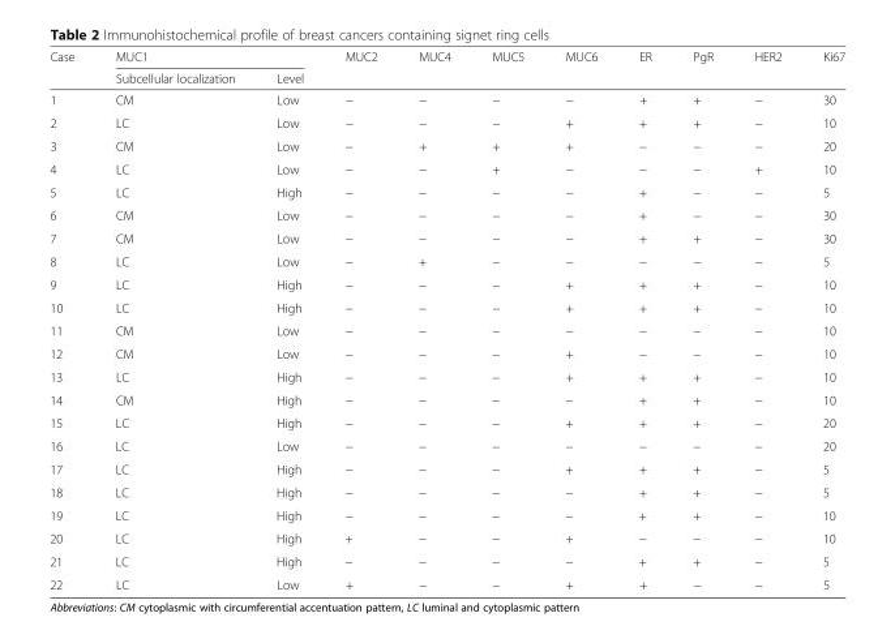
<table><thead><tr><td rowspan="2">Case</td><td colspan="2">MUC1</td><td rowspan="2">MUC2</td><td rowspan="2">MUC4</td><td rowspan="2">MUC5</td><td rowspan="2">MUC6</td><td rowspan="2">ER</td><td rowspan="2">PgR</td><td rowspan="2">HER2</td><td rowspan="2">Ki67</td></tr><tr><td>Subcellular localization</td><td>Level</td></tr></thead><tbody><tr><td>1</td><td>CM</td><td>Low</td><td>−</td><td>−</td><td>−</td><td>−</td><td>+</td><td>+</td><td>−</td><td>30</td></tr><tr><td>2</td><td>LC</td><td>Low</td><td>−</td><td>−</td><td>−</td><td>+</td><td>+</td><td>+</td><td>−</td><td>10</td></tr><tr><td>3</td><td>CM</td><td>Low</td><td>−</td><td>+</td><td>+</td><td>+</td><td>−</td><td>−</td><td>−</td><td>20</td></tr><tr><td>4</td><td>LC</td><td>Low</td><td>−</td><td>−</td><td>+</td><td>−</td><td>−</td><td>−</td><td>+</td><td>10</td></tr><tr><td>5</td><td>LC</td><td>High</td><td>−</td><td>−</td><td>−</td><td>−</td><td>+</td><td>−</td><td>−</td><td>5</td></tr><tr><td>6</td><td>CM</td><td>Low</td><td>−</td><td>−</td><td>−</td><td>−</td><td>+</td><td>−</td><td>−</td><td>30</td></tr><tr><td>7</td><td>CM</td><td>Low</td><td>−</td><td>−</td><td>−</td><td>−</td><td>+</td><td>+</td><td>−</td><td>30</td></tr><tr><td>8</td><td>LC</td><td>Low</td><td>−</td><td>+</td><td>−</td><td>−</td><td>−</td><td>−</td><td>−</td><td>5</td></tr><tr><td>9</td><td>LC</td><td>High</td><td>−</td><td>−</td><td>−</td><td>+</td><td>+</td><td>+</td><td>−</td><td>10</td></tr><tr><td>10</td><td>LC</td><td>High</td><td>−</td><td>−</td><td>−</td><td>+</td><td>+</td><td>+</td><td>−</td><td>10</td></tr><tr><td>11</td><td>CM</td><td>Low</td><td>−</td><td>−</td><td>−</td><td>−</td><td>−</td><td>−</td><td>−</td><td>10</td></tr><tr><td>12</td><td>CM</td><td>Low</td><td>−</td><td>−</td><td>−</td><td>+</td><td>−</td><td>−</td><td>−</td><td>10</td></tr><tr><td>13</td><td>LC</td><td>High</td><td>−</td><td>−</td><td>−</td><td>+</td><td>+</td><td>+</td><td>−</td><td>10</td></tr><tr><td>14</td><td>CM</td><td>High</td><td>−</td><td>−</td><td>−</td><td>−</td><td>+</td><td>+</td><td>−</td><td>10</td></tr><tr><td>15</td><td>LC</td><td>High</td><td>−</td><td>−</td><td>−</td><td>+</td><td>+</td><td>+</td><td>−</td><td>20</td></tr><tr><td>16</td><td>LC</td><td>Low</td><td>−</td><td>−</td><td>−</td><td>−</td><td>−</td><td>−</td><td>−</td><td>20</td></tr><tr><td>17</td><td>LC</td><td>High</td><td>−</td><td>−</td><td>−</td><td>+</td><td>+</td><td>+</td><td>−</td><td>5</td></tr><tr><td>18</td><td>LC</td><td>High</td><td>−</td><td>−</td><td>−</td><td>−</td><td>+</td><td>+</td><td>−</td><td>5</td></tr><tr><td>19</td><td>LC</td><td>High</td><td>−</td><td>−</td><td>−</td><td>−</td><td>+</td><td>+</td><td>−</td><td>10</td></tr><tr><td>20</td><td>LC</td><td>High</td><td>+</td><td>−</td><td>−</td><td>+</td><td>−</td><td>−</td><td>−</td><td>10</td></tr><tr><td>21</td><td>LC</td><td>High</td><td>−</td><td>−</td><td>−</td><td>−</td><td>+</td><td>+</td><td>−</td><td>5</td></tr><tr><td>22</td><td>LC</td><td>Low</td><td>+</td><td>−</td><td>−</td><td>+</td><td>+</td><td>−</td><td>−</td><td>5</td></tr></tbody></table>